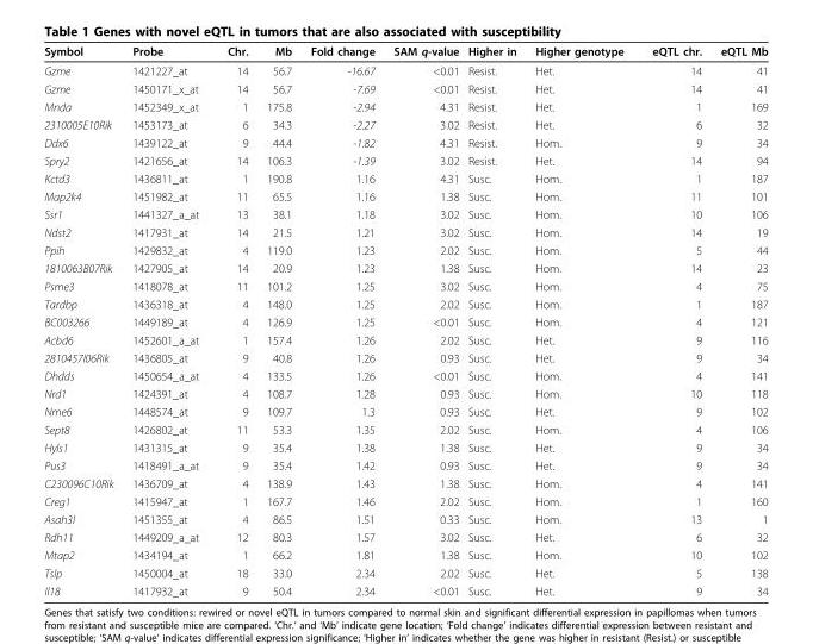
<table><thead><tr><td>Symbol</td><td>Probe</td><td>Chr.</td><td>Mb</td><td>Fold change</td><td>SAM q-value</td><td>Higher in</td><td>Higher genotype</td><td>eQTL chr.</td><td>eQTL Mb</td></tr></thead><tbody><tr><td>Gzme</td><td>1421227_at</td><td>14</td><td>56.7</td><td>-16.67</td><td>&lt;0.01</td><td>Resist.</td><td>Het.</td><td>14</td><td>41</td></tr><tr><td>Gzme</td><td>1450171_x_at</td><td>14</td><td>56.7</td><td>-7.69</td><td>&lt;0.01</td><td>Resist.</td><td>Het.</td><td>14</td><td>41</td></tr><tr><td>Mnda</td><td>1452349_x_at</td><td>1</td><td>175.8</td><td>-2.94</td><td>4.31</td><td>Resist.</td><td>Het.</td><td>1</td><td>169</td></tr><tr><td>2310005E10Rik</td><td>1453173_at</td><td>6</td><td>34.3</td><td>-2.27</td><td>3.02</td><td>Resist.</td><td>Het.</td><td>6</td><td>32</td></tr><tr><td>Ddx6</td><td>1439122_at</td><td>9</td><td>44.4</td><td>-1.82</td><td>4.31</td><td>Resist.</td><td>Hom.</td><td>9</td><td>34</td></tr><tr><td>Spry2</td><td>1421656_at</td><td>14</td><td>106.3</td><td>-1.39</td><td>3.02</td><td>Resist.</td><td>Het.</td><td>14</td><td>94</td></tr><tr><td>Kctd3</td><td>1436811_at</td><td>1</td><td>190.8</td><td>1.16</td><td>4.31</td><td>Susc.</td><td>Hom.</td><td>1</td><td>187</td></tr><tr><td>Map2k4</td><td>1451982_at</td><td>11</td><td>65.5</td><td>1.16</td><td>1.38</td><td>Susc.</td><td>Hom.</td><td>11</td><td>101</td></tr><tr><td>Ssr1</td><td>1441327_a_at</td><td>13</td><td>38.1</td><td>1.18</td><td>3.02</td><td>Susc.</td><td>Hom.</td><td>10</td><td>106</td></tr><tr><td>Ndst2</td><td>1417931_at</td><td>14</td><td>21.5</td><td>1.21</td><td>3.02</td><td>Susc.</td><td>Hom.</td><td>14</td><td>19</td></tr><tr><td>Ppih</td><td>1429832_at</td><td>4</td><td>119.0</td><td>1.23</td><td>2.02</td><td>Susc.</td><td>Hom.</td><td>5</td><td>44</td></tr><tr><td>1810063B07Rik</td><td>1427905_at</td><td>14</td><td>20.9</td><td>1.23</td><td>1.38</td><td>Susc.</td><td>Hom.</td><td>14</td><td>23</td></tr><tr><td>Psme3</td><td>1418078_at</td><td>11</td><td>101.2</td><td>1.25</td><td>3.02</td><td>Susc.</td><td>Hom.</td><td>4</td><td>75</td></tr><tr><td>Tardbp</td><td>1436318_at</td><td>4</td><td>148.0</td><td>1.25</td><td>2.02</td><td>Susc.</td><td>Hom.</td><td>1</td><td>187</td></tr><tr><td>BC003266</td><td>1449189_at</td><td>4</td><td>126.9</td><td>1.25</td><td>&lt;0.01</td><td>Susc.</td><td>Hom.</td><td>4</td><td>121</td></tr><tr><td>Acbd6</td><td>1452601_a_at</td><td>1</td><td>157.4</td><td>1.26</td><td>2.02</td><td>Susc.</td><td>Het.</td><td>9</td><td>116</td></tr><tr><td>2810457I06Rik</td><td>1436805_at</td><td>9</td><td>40.8</td><td>1.26</td><td>0.93</td><td>Susc.</td><td>Het.</td><td>9</td><td>34</td></tr><tr><td>Dhdds</td><td>1450654_a_at</td><td>4</td><td>133.5</td><td>1.26</td><td>&lt;0.01</td><td>Susc.</td><td>Hom.</td><td>4</td><td>141</td></tr><tr><td>Nrd1</td><td>1424391_at</td><td>4</td><td>108.7</td><td>1.28</td><td>0.93</td><td>Susc.</td><td>Hom.</td><td>10</td><td>118</td></tr><tr><td>Nme6</td><td>1448574_at</td><td>9</td><td>109.7</td><td>1.3</td><td>0.93</td><td>Susc.</td><td>Het.</td><td>9</td><td>102</td></tr><tr><td>Sept8</td><td>1426802_at</td><td>11</td><td>53.3</td><td>1.35</td><td>2.02</td><td>Susc.</td><td>Hom.</td><td>4</td><td>106</td></tr><tr><td>Hyls1</td><td>1431315_at</td><td>9</td><td>35.4</td><td>1.38</td><td>1.38</td><td>Susc.</td><td>Het.</td><td>9</td><td>34</td></tr><tr><td>Pus3</td><td>1418491_a_at</td><td>9</td><td>35.4</td><td>1.42</td><td>0.93</td><td>Susc.</td><td>Het.</td><td>9</td><td>34</td></tr><tr><td>C230096C10Rik</td><td>1436709_at</td><td>4</td><td>138.9</td><td>1.43</td><td>1.38</td><td>Susc.</td><td>Hom.</td><td>4</td><td>141</td></tr><tr><td>Creg1</td><td>1415947_at</td><td>1</td><td>167.7</td><td>1.46</td><td>2.02</td><td>Susc.</td><td>Hom.</td><td>1</td><td>160</td></tr><tr><td>Asah3l</td><td>1451355_at</td><td>4</td><td>86.5</td><td>1.51</td><td>0.33</td><td>Susc.</td><td>Hom.</td><td>13</td><td>1</td></tr><tr><td>Rdh11</td><td>1449209_a_at</td><td>12</td><td>80.3</td><td>1.57</td><td>3.02</td><td>Susc.</td><td>Het.</td><td>6</td><td>32</td></tr><tr><td>Mtap2</td><td>1434194_at</td><td>1</td><td>66.2</td><td>1.81</td><td>1.38</td><td>Susc.</td><td>Hom.</td><td>10</td><td>102</td></tr><tr><td>Tslp</td><td>1450004_at</td><td>18</td><td>33.0</td><td>2.34</td><td>2.02</td><td>Susc.</td><td>Het.</td><td>5</td><td>138</td></tr><tr><td>Il18</td><td>1417932_at</td><td>9</td><td>50.4</td><td>2.34</td><td>&lt;0.01</td><td>Susc.</td><td>Het.</td><td>9</td><td>34</td></tr></tbody></table>